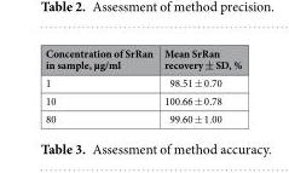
<table><thead><tr><td>Concentration of SrRan in sample, µg/ml</td><td>Mean SrRan recovery ± SD, %</td></tr></thead><tbody><tr><td>1</td><td>98.51 ± 0.70</td></tr><tr><td>10</td><td>100.66 ± 0.78</td></tr><tr><td>80</td><td>99.60 ± 1.00</td></tr></tbody></table>